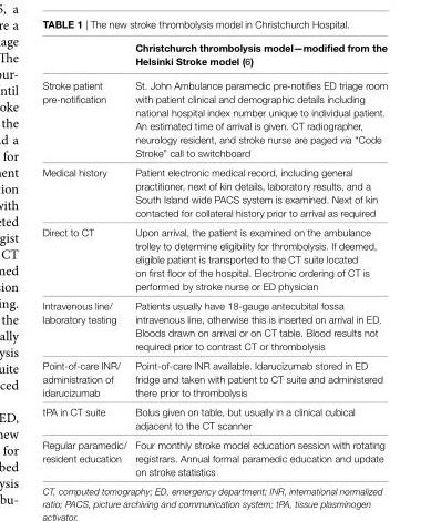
<table><thead><tr><td></td><td>christchurch thrombolysis model—modified from the helsinki stroke model (6)</td></tr></thead><tbody><tr><td>Stroke patient pre-notification</td><td>St. John Ambulance paramedic pre-notifies ED triage room with patient clinical and demographic details including national hospital index number unique to individual patient. An estimated time of arrival is given. CT radiographer, neurology resident, and stroke nurse are paged via “Code Stroke” call to switchboard</td></tr><tr><td>Medical history</td><td>Patient electronic medical record, including general practitioner, next of kin details, laboratory results, and a South Island wide PACS system is examined. Next of kin contacted for collateral history prior to arrival as required</td></tr><tr><td>Direct to CT</td><td>Upon arrival, the patient is examined on the ambulance trolley to determine eligibility for thrombolysis. If deemed, eligible patient is transported to the CT suite located on first floor of the hospital. Electronic ordering of CT is performed by stroke nurse or ED physician</td></tr><tr><td>Intravenous line/ laboratory testing</td><td>Patients usually have 18-gauge antecubital fossa intravenous line, otherwise this is inserted on arrival in ED. Bloods drawn on arrival or on CT table. Blood results not required prior to contrast CT or thrombolysis</td></tr><tr><td>Point-of-care INR/ administration of idarucizumab</td><td>Point-of-care INR available. Idarucizumab stored in ED fridge and taken with patient to CT suite and administered there prior to thrombolysis</td></tr><tr><td>tPA in CT suite</td><td>Bolus given on table, but usually in a clinical cubical adjacent to the CT scanner</td></tr><tr><td>Regular paramedic/ resident education</td><td>Four monthly stroke model education session with rotating registrars. Annual formal paramedic education and update on stroke statistics</td></tr></tbody></table>